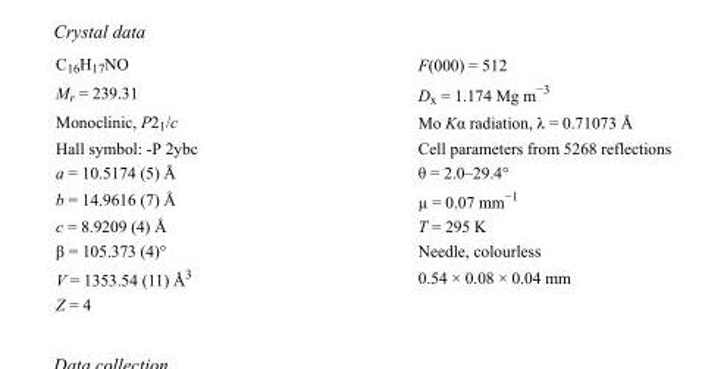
<table><tbody><tr><td>C<sub>16</sub>H<sub>17</sub>NO</td><td>F(000) = 512</td></tr><tr><td>M<sub>r</sub> = 239.31</td><td>D<sub>x</sub> = 1.174 Mg m<sup>−3</sup></td></tr><tr><td>Monoclinic, P2<sub>1</sub>/c</td><td>Mo Kα radiation, λ = 0.71073 Å</td></tr><tr><td>Hall symbol: -P 2ybc</td><td>Cell parameters from 5268 reflections</td></tr><tr><td>a = 10.5174 (5) Å</td><td>θ = 2.0–29.4°</td></tr><tr><td>b = 14.9616 (7) Å</td><td>µ = 0.07 mm<sup>−1</sup></td></tr><tr><td>c = 8.9209 (4) Å</td><td>T = 295 K</td></tr><tr><td>β = 105.373 (4)°</td><td>Needle, colourless</td></tr><tr><td>V = 1353.54 (11) Å<sup>3</sup></td><td>0.54 × 0.08 × 0.04 mm</td></tr><tr><td>Z = 4</td><td></td></tr></tbody></table>